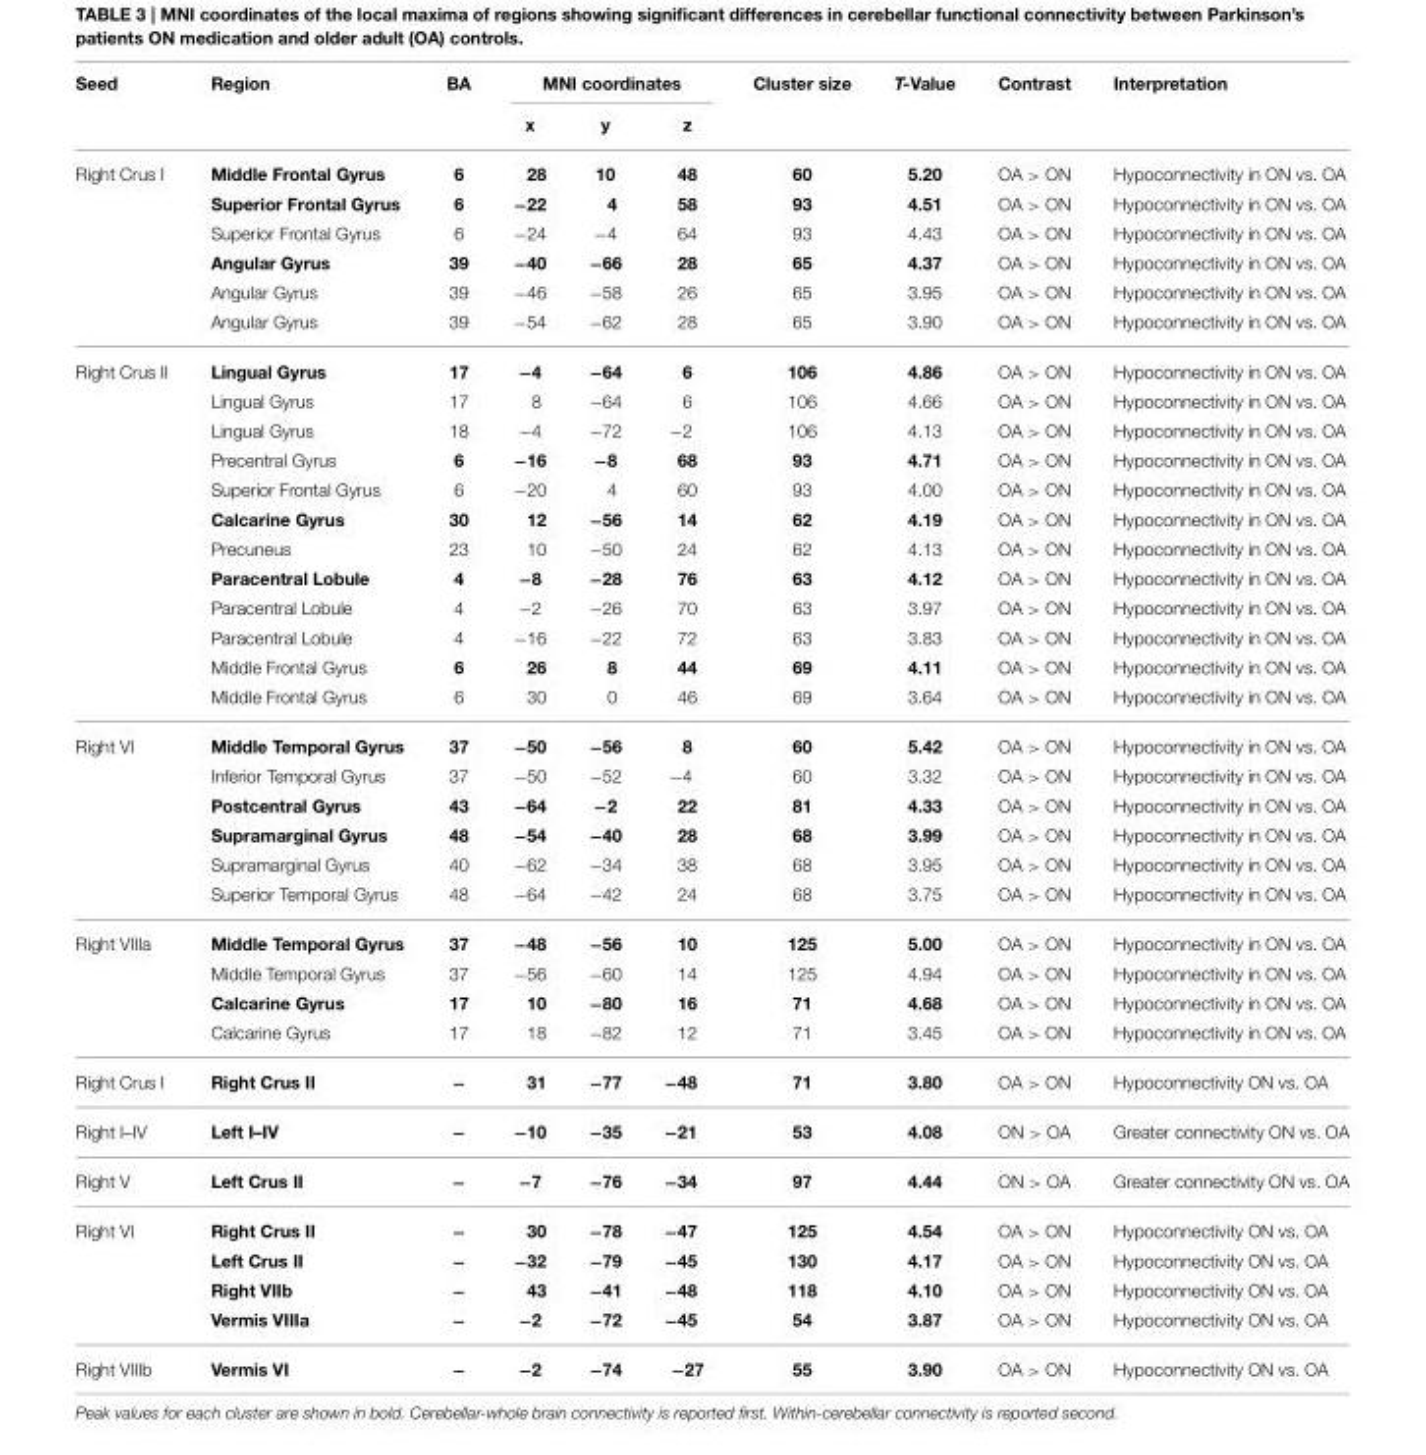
<table><thead><tr><td rowspan="2">Seed</td><td rowspan="2">Region</td><td rowspan="2">BA</td><td colspan="3">MNI coordinates</td><td rowspan="2">Cluster size</td><td rowspan="2">T-Value</td><td rowspan="2">Contrast</td><td rowspan="2">Interpretation</td></tr><tr><td>x</td><td>y</td><td>z</td></tr></thead><tbody><tr><td rowspan="6">Right Crus I</td><td>Middle Frontal Gyrus</td><td>6</td><td>28</td><td>10</td><td>48</td><td>60</td><td>5.20</td><td>OA &gt; ON</td><td>Hypoconnectivity in ON vs. OA</td></tr><tr><td>Superior Frontal Gyrus</td><td>6</td><td>−22</td><td>4</td><td>58</td><td>93</td><td>4.51</td><td>OA &gt; ON</td><td>Hypoconnectivity in ON vs. OA</td></tr><tr><td>Superior Frontal Gyrus</td><td>6</td><td>−24</td><td>−4</td><td>64</td><td>93</td><td>4.43</td><td>OA &gt; ON</td><td>Hypoconnectivity in ON vs. OA</td></tr><tr><td>Angular Gyrus</td><td>39</td><td>−40</td><td>−66</td><td>28</td><td>65</td><td>4.37</td><td>OA &gt; ON</td><td>Hypoconnectivity in ON vs. OA</td></tr><tr><td>Angular Gyrus</td><td>39</td><td>−46</td><td>−58</td><td>26</td><td>65</td><td>3.95</td><td>OA &gt; ON</td><td>Hypoconnectivity in ON vs. OA</td></tr><tr><td>Angular Gyrus</td><td>39</td><td>−54</td><td>−62</td><td>28</td><td>65</td><td>3.90</td><td>OA &gt; ON</td><td>Hypoconnectivity in ON vs. OA</td></tr><tr><td rowspan="12">Right Crus II</td><td>Lingual Gyrus</td><td>17</td><td>−4</td><td>−64</td><td>6</td><td>106</td><td>4.86</td><td>OA &gt; ON</td><td>Hypoconnectivity in ON vs. OA</td></tr><tr><td>Lingual Gyrus</td><td>17</td><td>8</td><td>−64</td><td>6</td><td>106</td><td>4.66</td><td>OA &gt; ON</td><td>Hypoconnectivity in ON vs. OA</td></tr><tr><td>Lingual Gyrus</td><td>18</td><td>−4</td><td>−72</td><td>−2</td><td>106</td><td>4.13</td><td>OA &gt; ON</td><td>Hypoconnectivity in ON vs. OA</td></tr><tr><td>Precentral Gyrus</td><td>6</td><td>−16</td><td>−8</td><td>68</td><td>93</td><td>4.71</td><td>OA &gt; ON</td><td>Hypoconnectivity in ON vs. OA</td></tr><tr><td>Superior Frontal Gyrus</td><td>6</td><td>−20</td><td>4</td><td>60</td><td>93</td><td>4.00</td><td>OA &gt; ON</td><td>Hypoconnectivity in ON vs. OA</td></tr><tr><td>Calcarine Gyrus</td><td>30</td><td>12</td><td>−56</td><td>14</td><td>62</td><td>4.19</td><td>OA &gt; ON</td><td>Hypoconnectivity in ON vs. OA</td></tr><tr><td>Precuneus</td><td>23</td><td>10</td><td>−50</td><td>24</td><td>62</td><td>4.13</td><td>OA &gt; ON</td><td>Hypoconnectivity in ON vs. OA</td></tr><tr><td>Paracentral Lobule</td><td>4</td><td>−8</td><td>−28</td><td>76</td><td>63</td><td>4.12</td><td>OA &gt; ON</td><td>Hypoconnectivity in ON vs. OA</td></tr><tr><td>Paracentral Lobule</td><td>4</td><td>−2</td><td>−26</td><td>70</td><td>63</td><td>3.97</td><td>OA &gt; ON</td><td>Hypoconnectivity in ON vs. OA</td></tr><tr><td>Paracentral Lobule</td><td>4</td><td>−16</td><td>−22</td><td>72</td><td>63</td><td>3.83</td><td>OA &gt; ON</td><td>Hypoconnectivity in ON vs. OA</td></tr><tr><td>Middle Frontal Gyrus</td><td>6</td><td>26</td><td>8</td><td>44</td><td>69</td><td>4.11</td><td>OA &gt; ON</td><td>Hypoconnectivity in ON vs. OA</td></tr><tr><td>Middle Frontal Gyrus</td><td>6</td><td>30</td><td>0</td><td>46</td><td>69</td><td>3.64</td><td>OA &gt; ON</td><td>Hypoconnectivity in ON vs. OA</td></tr><tr><td rowspan="6">Right VI</td><td>Middle Temporal Gyrus</td><td>37</td><td>−50</td><td>−56</td><td>8</td><td>60</td><td>5.42</td><td>OA &gt; ON</td><td>Hypoconnectivity in ON vs. OA</td></tr><tr><td>Inferior Temporal Gyrus</td><td>37</td><td>−50</td><td>−52</td><td>−4</td><td>60</td><td>3.32</td><td>OA &gt; ON</td><td>Hypoconnectivity in ON vs. OA</td></tr><tr><td>Postcentral Gyrus</td><td>43</td><td>−64</td><td>−2</td><td>22</td><td>81</td><td>4.33</td><td>OA &gt; ON</td><td>Hypoconnectivity in ON vs. OA</td></tr><tr><td>Supramarginal Gyrus</td><td>48</td><td>−54</td><td>−40</td><td>28</td><td>68</td><td>3.99</td><td>OA &gt; ON</td><td>Hypoconnectivity in ON vs. OA</td></tr><tr><td>Supramarginal Gyrus</td><td>40</td><td>−62</td><td>−34</td><td>38</td><td>68</td><td>3.95</td><td>OA &gt; ON</td><td>Hypoconnectivity in ON vs. OA</td></tr><tr><td>Superior Temporal Gyrus</td><td>48</td><td>−64</td><td>−42</td><td>24</td><td>68</td><td>3.75</td><td>OA &gt; ON</td><td>Hypoconnectivity in ON vs. OA</td></tr><tr><td rowspan="4">Right VIIIa</td><td>Middle Temporal Gyrus</td><td>37</td><td>−48</td><td>−56</td><td>10</td><td>125</td><td>5.00</td><td>OA &gt; ON</td><td>Hypoconnectivity in ON vs. OA</td></tr><tr><td>Middle Temporal Gyrus</td><td>37</td><td>−56</td><td>−60</td><td>14</td><td>125</td><td>4.94</td><td>OA &gt; ON</td><td>Hypoconnectivity in ON vs. OA</td></tr><tr><td>Calcarine Gyrus</td><td>17</td><td>10</td><td>−80</td><td>16</td><td>71</td><td>4.68</td><td>OA &gt; ON</td><td>Hypoconnectivity in ON vs. OA</td></tr><tr><td>Calcarine Gyrus</td><td>17</td><td>18</td><td>−82</td><td>12</td><td>71</td><td>3.45</td><td>OA &gt; ON</td><td>Hypoconnectivity in ON vs. OA</td></tr><tr><td>Right Crus I</td><td>Right Crus II</td><td>−</td><td>31</td><td>−77</td><td>−48</td><td>71</td><td>3.80</td><td>OA &gt; ON</td><td>Hypoconnectivity ON vs. OA</td></tr><tr><td>Right I–IV</td><td>Left I–IV</td><td>−</td><td>−10</td><td>−35</td><td>−21</td><td>53</td><td>4.08</td><td>ON &gt; OA</td><td>Greater connectivity ON vs. OA</td></tr><tr><td>Right V</td><td>Left Crus II</td><td>−</td><td>−7</td><td>−76</td><td>−34</td><td>97</td><td>4.44</td><td>ON &gt; OA</td><td>Greater connectivity ON vs. OA</td></tr><tr><td rowspan="4">Right VI</td><td>Right Crus II</td><td>−</td><td>30</td><td>−78</td><td>−47</td><td>125</td><td>4.54</td><td>OA &gt; ON</td><td>Hypoconnectivity ON vs. OA</td></tr><tr><td>Left Crus II</td><td>−</td><td>−32</td><td>−79</td><td>−45</td><td>130</td><td>4.17</td><td>OA &gt; ON</td><td>Hypoconnectivity ON vs. OA</td></tr><tr><td>Right VIIb</td><td>−</td><td>43</td><td>−41</td><td>−48</td><td>118</td><td>4.10</td><td>OA &gt; ON</td><td>Hypoconnectivity ON vs. OA</td></tr><tr><td>Vermis VIIIa</td><td>−</td><td>−2</td><td>−72</td><td>−45</td><td>54</td><td>3.87</td><td>OA &gt; ON</td><td>Hypoconnectivity ON vs. OA</td></tr><tr><td>Right VIIIb</td><td>Vermis VI</td><td>−</td><td>−2</td><td>−74</td><td>−27</td><td>55</td><td>3.90</td><td>OA &gt; ON</td><td>Hypoconnectivity ON vs. OA</td></tr></tbody></table>